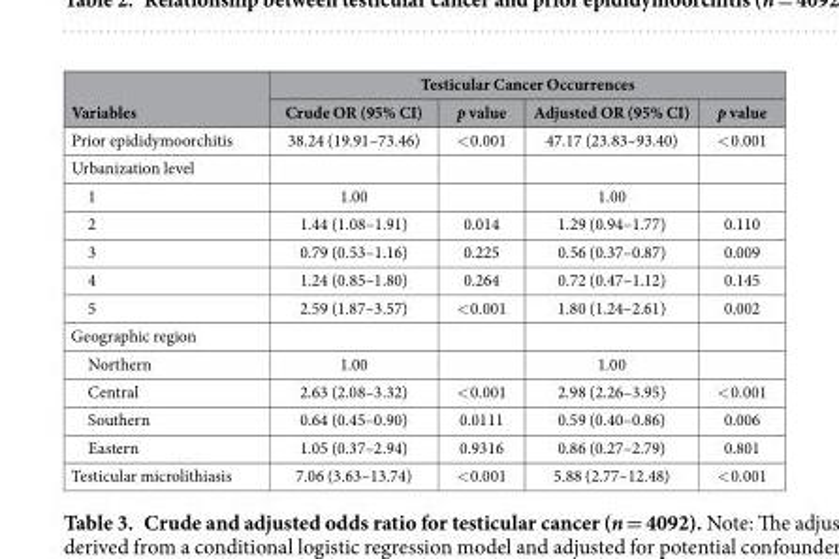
<table><thead><tr><td rowspan="2">Variables</td><td colspan="4">Testicular Cancer Occurrences</td></tr><tr><td>Crude OR (95% CI)</td><td>p value</td><td>Adjusted OR (95% CI)</td><td>p value</td></tr></thead><tbody><tr><td>Prior epididymoorchitis</td><td>38.24 (19.91–73.46)</td><td>&lt; 0.001</td><td>47.17 (23.83–93.40)</td><td>&lt; 0.001</td></tr><tr><td colspan="5">Urbanization level</td></tr><tr><td>1</td><td>1.00</td><td></td><td>1.00</td><td></td></tr><tr><td>2</td><td>1.44 (1.08–1.91)</td><td>0.014</td><td>1.29 (0.94–1.77)</td><td>0.110</td></tr><tr><td>3</td><td>0.79 (0.53–1.16)</td><td>0.225</td><td>0.56 (0.37–0.87)</td><td>0.009</td></tr><tr><td>4</td><td>1.24 (0.85–1.80)</td><td>0.264</td><td>0.72 (0.47–1.12)</td><td>0.145</td></tr><tr><td>5</td><td>2.59 (1.87–3.57)</td><td>&lt; 0.001</td><td>1.80 (1.24–2.61)</td><td>0.002</td></tr><tr><td colspan="5">Geographic region</td></tr><tr><td>Northern</td><td>1.00</td><td></td><td>1.00</td><td></td></tr><tr><td>Central</td><td>2.63 (2.08–3.32)</td><td>&lt; 0.001</td><td>2.98 (2.26–3.95)</td><td>&lt; 0.001</td></tr><tr><td>Southern</td><td>0.64 (0.45–0.90)</td><td>0.0111</td><td>0.59 (0.40–0.86)</td><td>0.006</td></tr><tr><td>Eastern</td><td>1.05 (0.37–2.94)</td><td>0.9316</td><td>0.86 (0.27–2.79)</td><td>0.801</td></tr><tr><td>Testicular microlithiasis</td><td>7.06 (3.63–13.74)</td><td>&lt; 0.001</td><td>5.88 (2.77–12.48)</td><td>&lt; 0.001</td></tr></tbody></table>